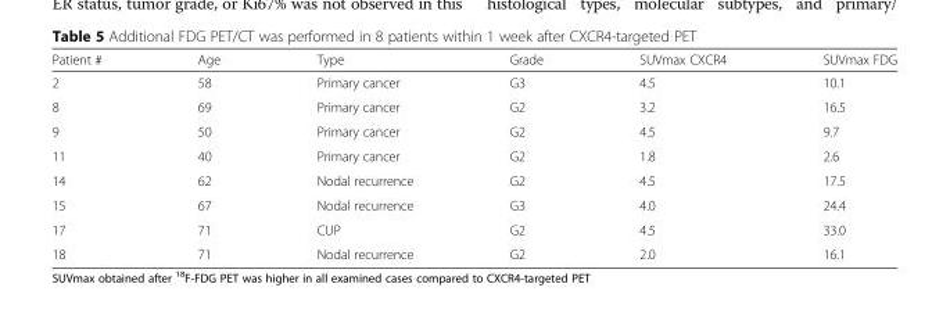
<table><thead><tr><td>Patient #</td><td>Age</td><td>Type</td><td>Grade</td><td>SUVmax CXCR4</td><td>SUVmax FDG</td></tr></thead><tbody><tr><td>2</td><td>58</td><td>Primary cancer</td><td>G3</td><td>4.5</td><td>10.1</td></tr><tr><td>8</td><td>69</td><td>Primary cancer</td><td>G2</td><td>3.2</td><td>16.5</td></tr><tr><td>9</td><td>50</td><td>Primary cancer</td><td>G2</td><td>4.5</td><td>9.7</td></tr><tr><td>11</td><td>40</td><td>Primary cancer</td><td>G2</td><td>1.8</td><td>2.6</td></tr><tr><td>14</td><td>62</td><td>Nodal recurrence</td><td>G2</td><td>4.5</td><td>17.5</td></tr><tr><td>15</td><td>67</td><td>Nodal recurrence</td><td>G3</td><td>4.0</td><td>24.4</td></tr><tr><td>17</td><td>71</td><td>CUP</td><td>G2</td><td>4.5</td><td>33.0</td></tr><tr><td>18</td><td>71</td><td>Nodal recurrence</td><td>G2</td><td>2.0</td><td>16.1</td></tr></tbody></table>